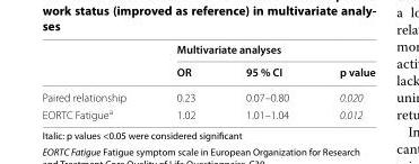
<table><thead><tr><td rowspan="2"></td><td colspan="3">Multivariate analyses</td></tr><tr><td>OR</td><td>95 % CI</td><td>p value</td></tr></thead><tbody><tr><td>Paired relationship</td><td>0.23</td><td>0.07–0.80</td><td>0.020</td></tr><tr><td>EORTC Fatigue<sup>a</sup></td><td>1.02</td><td>1.01–1.04</td><td>0.012</td></tr></tbody></table>